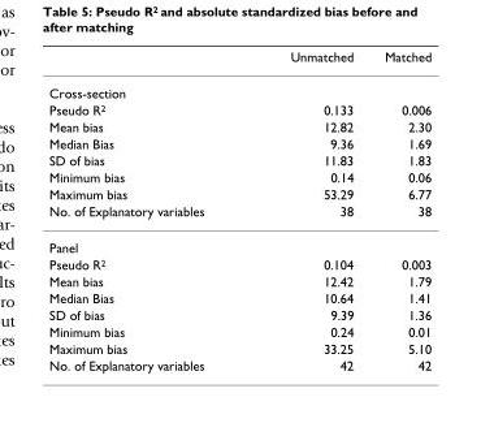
<table><thead><tr><td></td><td>Unmatched</td><td>Matched</td></tr></thead><tbody><tr><td colspan="3">Cross-section</td></tr><tr><td>Pseudo R<sup>2</sup></td><td>0.133</td><td>0.006</td></tr><tr><td>Mean bias</td><td>12.82</td><td>2.30</td></tr><tr><td>Median Bias</td><td>9.36</td><td>1.69</td></tr><tr><td>SD of bias</td><td>11.83</td><td>1.83</td></tr><tr><td>Minimum bias</td><td>0.14</td><td>0.06</td></tr><tr><td>Maximum bias</td><td>53.29</td><td>6.77</td></tr><tr><td>No. of Explanatory variables</td><td>38</td><td>38</td></tr><tr><td colspan="3">Panel</td></tr><tr><td>Pseudo R<sup>2</sup></td><td>0.104</td><td>0.003</td></tr><tr><td>Mean bias</td><td>12.42</td><td>1.79</td></tr><tr><td>Median Bias</td><td>10.64</td><td>1.41</td></tr><tr><td>SD of bias</td><td>9.39</td><td>1.36</td></tr><tr><td>Minimum bias</td><td>0.24</td><td>0.01</td></tr><tr><td>Maximum bias</td><td>33.25</td><td>5.10</td></tr><tr><td>No. of Explanatory variables</td><td>42</td><td>42</td></tr></tbody></table>